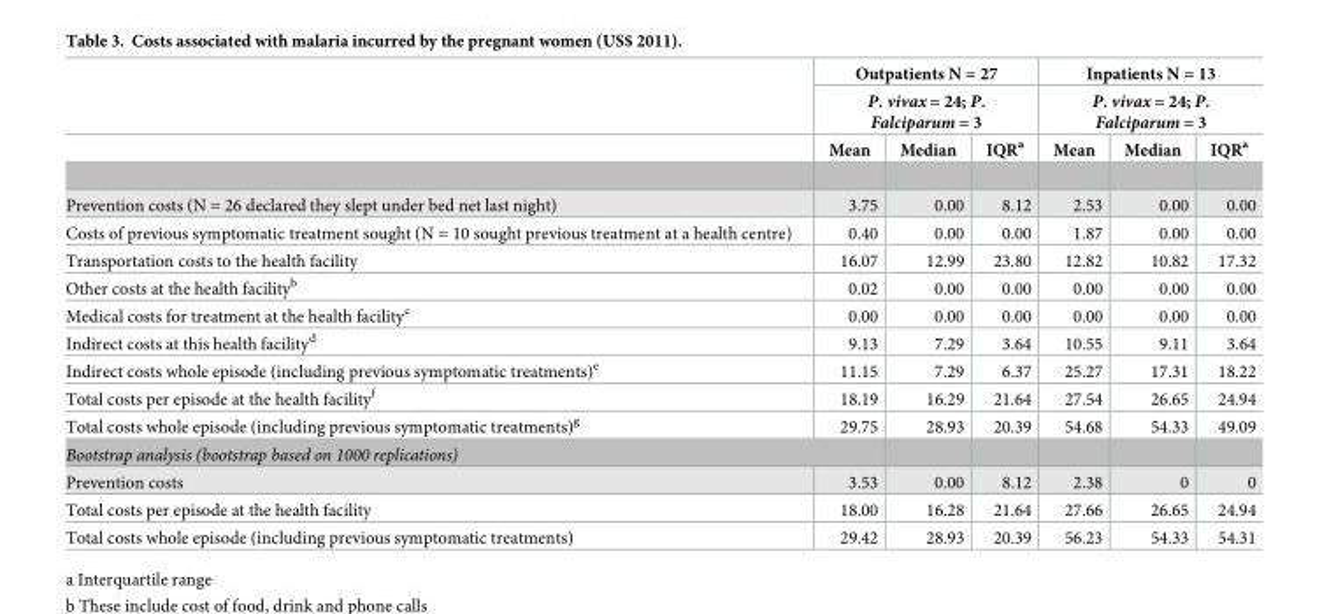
<table><thead><tr><td rowspan="3"></td><td rowspan="2" colspan="3">Outpatients N = 27 P. vivax = 24; P. Falciparum = 3</td><td rowspan="2" colspan="3">Inpatients N = 13 P. vivax = 24; P. Falciparum = 3</td></tr><tr></tr><tr><td>Mean</td><td>Median</td><td>IQR<sup>a</sup></td><td>Mean</td><td>Median</td><td>IQR<sup>a</sup></td></tr></thead><tbody><tr><td>Prevention costs (N = 26 declared they slept under bed net last night)</td><td>3.75</td><td>0.00</td><td>8.12</td><td>2.53</td><td>0.00</td><td>0.00</td></tr><tr><td>Costs of previous symptomatic treatment sought (N = 10 sought previous treatment at a health centre)</td><td>0.40</td><td>0.00</td><td>0.00</td><td>1.87</td><td>0.00</td><td>0.00</td></tr><tr><td>Transportation costs to the health facility</td><td>16.07</td><td>12.99</td><td>23.80</td><td>12.82</td><td>10.82</td><td>17.32</td></tr><tr><td>Other costs at the health facility<sup>b</sup></td><td>0.02</td><td>0.00</td><td>0.00</td><td>0.00</td><td>0.00</td><td>0.00</td></tr><tr><td>Medical costs for treatment at the health facility<sup>c</sup></td><td>0.00</td><td>0.00</td><td>0.00</td><td>0.00</td><td>0.00</td><td>0.00</td></tr><tr><td>Indirect costs at this health facility<sup>d</sup></td><td>9.13</td><td>7.29</td><td>3.64</td><td>10.55</td><td>9.11</td><td>3.64</td></tr><tr><td>Indirect costs whole episode (including previous symptomatic treatments)<sup>e</sup></td><td>11.15</td><td>7.29</td><td>6.37</td><td>25.27</td><td>17.31</td><td>18.22</td></tr><tr><td>Total costs per episode at the health facility<sup>f</sup></td><td>18.19</td><td>16.29</td><td>21.64</td><td>27.54</td><td>26.65</td><td>24.94</td></tr><tr><td>Total costs whole episode (including previous symptomatic treatments)<sup>g</sup></td><td>29.75</td><td>28.93</td><td>20.39</td><td>54.68</td><td>54.33</td><td>49.09</td></tr><tr><td colspan="7">Bootstrap analysis (bootstrap based on 1000 replications)</td></tr><tr><td>Prevention costs</td><td>3.53</td><td>0.00</td><td>8.12</td><td>2.38</td><td>0</td><td>0</td></tr><tr><td>Total costs per episode at the health facility</td><td>18.00</td><td>16.28</td><td>21.64</td><td>27.66</td><td>26.65</td><td>24.94</td></tr><tr><td>Total costs whole episode (including previous symptomatic treatments)</td><td>29.42</td><td>28.93</td><td>20.39</td><td>56.23</td><td>54.33</td><td>54.31</td></tr></tbody></table>